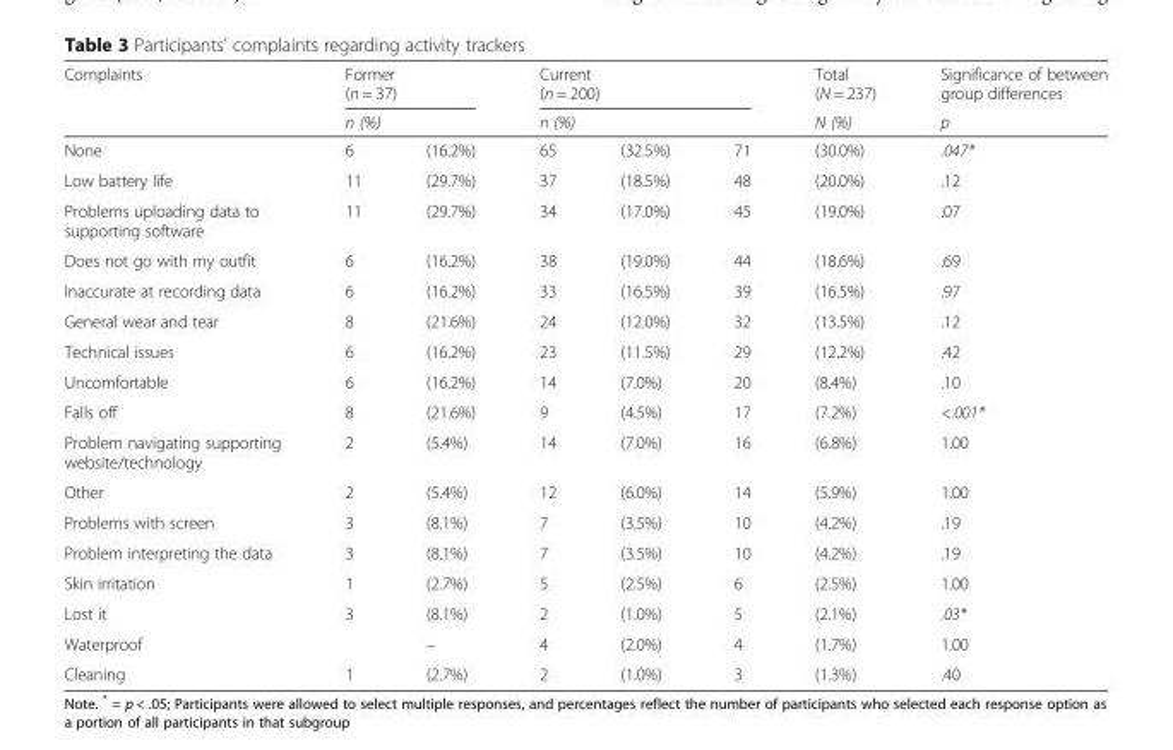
<table><thead><tr><td rowspan="3">Complaints None</td><td rowspan="2" colspan="2">Former (n = 37) n (%)</td><td rowspan="2" colspan="3">Current (n = 200) n (%)</td><td rowspan="3">Total (N = 237) N (%) (30.0%)</td><td rowspan="3">Significance of between group differences p .047*</td></tr><tr></tr><tr><td>6</td><td>(16.2%)</td><td>65</td><td>(32.5%)</td><td>71</td></tr></thead><tbody><tr><td>Low battery life</td><td>11</td><td>(29.7%)</td><td>37</td><td>(18.5%)</td><td>48</td><td>(20.0%)</td><td>.12</td></tr><tr><td>Problems uploading data to supporting software</td><td>11</td><td>(29.7%)</td><td>34</td><td>(17.0%)</td><td>45</td><td>(19.0%)</td><td>.07</td></tr><tr><td>Does not go with my outfit</td><td>6</td><td>(16.2%)</td><td>38</td><td>(19.0%)</td><td>44</td><td>(18.6%)</td><td>.69</td></tr><tr><td>Inaccurate at recording data</td><td>6</td><td>(16.2%)</td><td>33</td><td>(16.5%)</td><td>39</td><td>(16.5%)</td><td>.97</td></tr><tr><td>General wear and tear</td><td>8</td><td>(21.6%)</td><td>24</td><td>(12.0%)</td><td>32</td><td>(13.5%)</td><td>.12</td></tr><tr><td>Technical issues</td><td>6</td><td>(16.2%)</td><td>23</td><td>(11.5%)</td><td>29</td><td>(12.2%)</td><td>.42</td></tr><tr><td>Uncomfortable</td><td>6</td><td>(16.2%)</td><td>14</td><td>(7.0%)</td><td>20</td><td>(8.4%)</td><td>.10</td></tr><tr><td>Falls off</td><td>8</td><td>(21.6%)</td><td>9</td><td>(4.5%)</td><td>17</td><td>(7.2%)</td><td>&lt;.001*</td></tr><tr><td>Problem navigating supporting website/technology</td><td>2</td><td>(5.4%)</td><td>14</td><td>(7.0%)</td><td>16</td><td>(6.8%)</td><td>1.00</td></tr><tr><td>Other</td><td>2</td><td>(5.4%)</td><td>12</td><td>(6.0%)</td><td>14</td><td>(5.9%)</td><td>1.00</td></tr><tr><td>Problems with screen</td><td>3</td><td>(8.1%)</td><td>7</td><td>(3.5%)</td><td>10</td><td>(4.2%)</td><td>.19</td></tr><tr><td>Problem interpreting the data</td><td>3</td><td>(8.1%)</td><td>7</td><td>(3.5%)</td><td>10</td><td>(4.2%)</td><td>.19</td></tr><tr><td>Skin irritation</td><td>1</td><td>(2.7%)</td><td>5</td><td>(2.5%)</td><td>6</td><td>(2.5%)</td><td>1.00</td></tr><tr><td>Lost it</td><td>3</td><td>(8.1%)</td><td>2</td><td>(1.0%)</td><td>5</td><td>(2.1%)</td><td>.03*</td></tr><tr><td>Waterproof</td><td></td><td>–</td><td>4</td><td>(2.0%)</td><td>4</td><td>(1.7%)</td><td>1.00</td></tr><tr><td>Cleaning</td><td>1</td><td>(2.7%)</td><td>2</td><td>(1.0%)</td><td>3</td><td>(1.3%)</td><td>.40</td></tr></tbody></table>